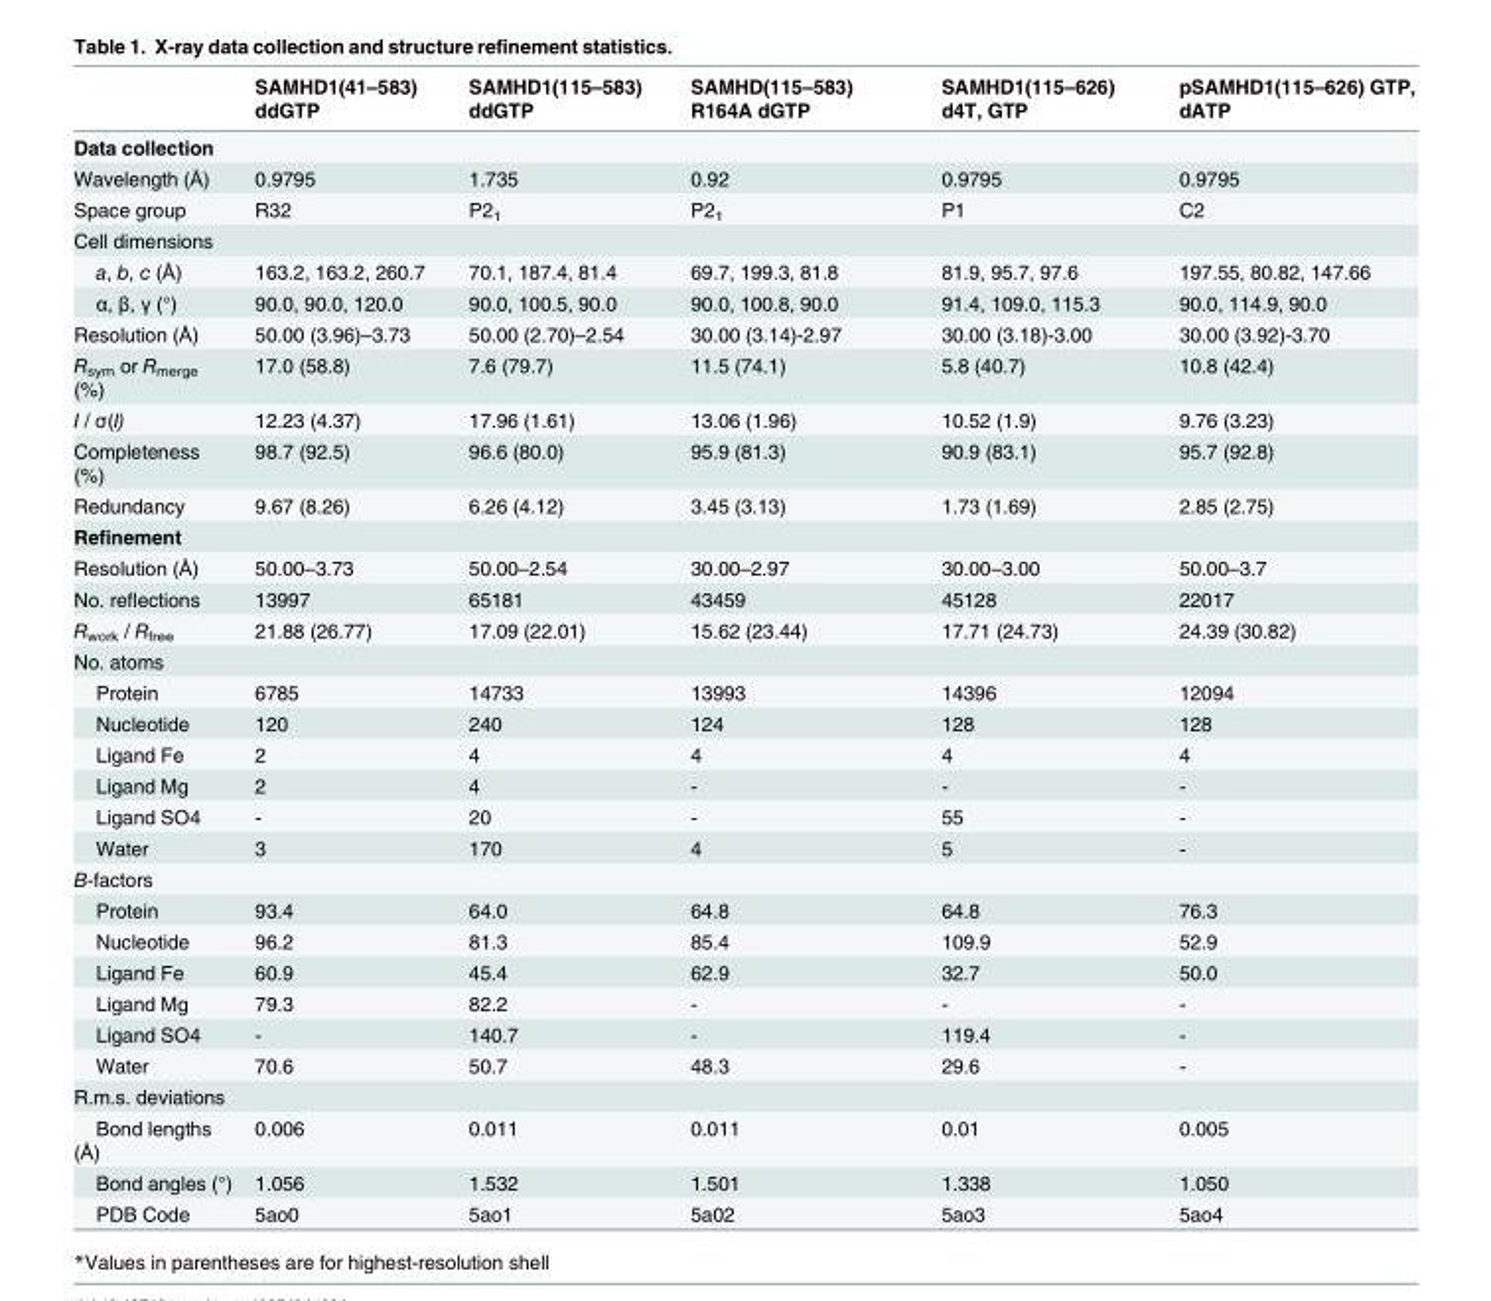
<table><thead><tr><td></td><td>SAMHD1(41–583) ddGTP</td><td>SAMHD1(115–583) ddGTP</td><td>SAMHD(115–583) R164A dGTP</td><td>SAMHD1(115–626) d4T, GTP</td><td>pSAMHD1(115–626) GTP, dATP</td></tr></thead><tbody><tr><td colspan="6">Data collection</td></tr><tr><td>Wavelength (Å)</td><td>0.9795</td><td>1.735</td><td>0.92</td><td>0.9795</td><td>0.9795</td></tr><tr><td>Space group</td><td>R32</td><td>P2<sub>1</sub></td><td>P2<sub>1</sub></td><td>P1</td><td>C2</td></tr><tr><td colspan="6">Cell dimensions</td></tr><tr><td>a, b, c (Å)</td><td>163.2, 163.2, 260.7</td><td>70.1, 187.4, 81.4</td><td>69.7, 199.3, 81.8</td><td>81.9, 95.7, 97.6</td><td>197.55, 80.82, 147.66</td></tr><tr><td>α, β, γ (°)</td><td>90.0, 90.0, 120.0</td><td>90.0, 100.5, 90.0</td><td>90.0, 100.8, 90.0</td><td>91.4, 109.0, 115.3</td><td>90.0, 114.9, 90.0</td></tr><tr><td>Resolution (Å)</td><td>50.00 (3.96)–3.73</td><td>50.00 (2.70)–2.54</td><td>30.00 (3.14)-2.97</td><td>30.00 (3.18)-3.00</td><td>30.00 (3.92)-3.70</td></tr><tr><td>R<sub>sym</sub> or R<sub>merge</sub> (%)</td><td>17.0 (58.8)</td><td>7.6 (79.7)</td><td>11.5 (74.1)</td><td>5.8 (40.7)</td><td>10.8 (42.4)</td></tr><tr><td>I / σ(I)</td><td>12.23 (4.37)</td><td>17.96 (1.61)</td><td>13.06 (1.96)</td><td>10.52 (1.9)</td><td>9.76 (3.23)</td></tr><tr><td>Completeness (%)</td><td>98.7 (92.5)</td><td>96.6 (80.0)</td><td>95.9 (81.3)</td><td>90.9 (83.1)</td><td>95.7 (92.8)</td></tr><tr><td>Redundancy</td><td>9.67 (8.26)</td><td>6.26 (4.12)</td><td>3.45 (3.13)</td><td>1.73 (1.69)</td><td>2.85 (2.75)</td></tr><tr><td colspan="6">Refinement</td></tr><tr><td>Resolution (Å)</td><td>50.00–3.73</td><td>50.00–2.54</td><td>30.00–2.97</td><td>30.00–3.00</td><td>50.00–3.7</td></tr><tr><td>No. reflections</td><td>13997</td><td>65181</td><td>43459</td><td>45128</td><td>22017</td></tr><tr><td>R<sub>work</sub> / R<sub>free</sub></td><td>21.88 (26.77)</td><td>17.09 (22.01)</td><td>15.62 (23.44)</td><td>17.71 (24.73)</td><td>24.39 (30.82)</td></tr><tr><td colspan="6">No. atoms</td></tr><tr><td>Protein</td><td>6785</td><td>14733</td><td>13993</td><td>14396</td><td>12094</td></tr><tr><td>Nucleotide</td><td>120</td><td>240</td><td>124</td><td>128</td><td>128</td></tr><tr><td>Ligand Fe</td><td>2</td><td>4</td><td>4</td><td>4</td><td>4</td></tr><tr><td>Ligand Mg</td><td>2</td><td>4</td><td>-</td><td>-</td><td>-</td></tr><tr><td>Ligand SO4</td><td>-</td><td>20</td><td>-</td><td>55</td><td>-</td></tr><tr><td>Water</td><td>3</td><td>170</td><td>4</td><td>5</td><td>-</td></tr><tr><td colspan="6">B-factors</td></tr><tr><td>Protein</td><td>93.4</td><td>64.0</td><td>64.8</td><td>64.8</td><td>76.3</td></tr><tr><td>Nucleotide</td><td>96.2</td><td>81.3</td><td>85.4</td><td>109.9</td><td>52.9</td></tr><tr><td>Ligand Fe</td><td>60.9</td><td>45.4</td><td>62.9</td><td>32.7</td><td>50.0</td></tr><tr><td>Ligand Mg</td><td>79.3</td><td>82.2</td><td>-</td><td>-</td><td>-</td></tr><tr><td>Ligand SO4</td><td>-</td><td>140.7</td><td>-</td><td>119.4</td><td>-</td></tr><tr><td>Water</td><td>70.6</td><td>50.7</td><td>48.3</td><td>29.6</td><td>-</td></tr><tr><td colspan="6">R.m.s. deviations</td></tr><tr><td>Bond lengths (Å)</td><td>0.006</td><td>0.011</td><td>0.011</td><td>0.01</td><td>0.005</td></tr><tr><td>Bond angles (°)</td><td>1.056</td><td>1.532</td><td>1.501</td><td>1.338</td><td>1.050</td></tr><tr><td>PDB Code</td><td>5ao0</td><td>5ao1</td><td>5a02</td><td>5ao3</td><td>5ao4</td></tr></tbody></table>